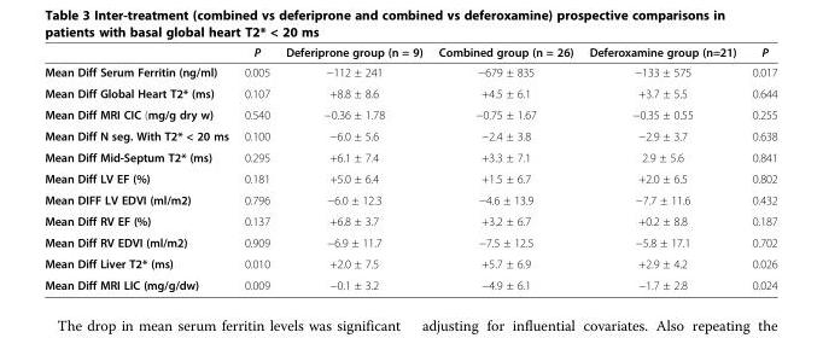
<table><thead><tr><td></td><td>P</td><td>Deferiprone group (n = 9)</td><td>Combined group (n = 26)</td><td>Deferoxamine group (n=21)</td><td>P</td></tr></thead><tbody><tr><td>Mean Diff Serum Ferritin (ng/ml)</td><td>0.005</td><td>−112 ± 241</td><td>−679 ± 835</td><td>−133 ± 575</td><td>0.017</td></tr><tr><td>Mean Diff Global Heart T2* (ms)</td><td>0.107</td><td>+8.8 ± 8.6</td><td>+4.5 ± 6.1</td><td>+3.7 ± 5.5</td><td>0.644</td></tr><tr><td>Mean Diff MRI CIC (mg/g dry w)</td><td>0.540</td><td>−0.36 ± 1.78</td><td>−0.75 ± 1.67</td><td>−0.35 ± 0.55</td><td>0.255</td></tr><tr><td>Mean Diff N seg. With T2* &lt; 20 ms</td><td>0.100</td><td>−6.0 ± 5.6</td><td>−2.4 ± 3.8</td><td>−2.9 ± 3.7</td><td>0.638</td></tr><tr><td>Mean Diff Mid-Septum T2* (ms)</td><td>0.295</td><td>+6.1 ± 7.4</td><td>+3.3 ± 7.1</td><td>2.9 ± 5.6</td><td>0.841</td></tr><tr><td>Mean Diff LV EF (%)</td><td>0.181</td><td>+5.0 ± 6.4</td><td>+1.5 ± 6.7</td><td>+2.0 ± 6.5</td><td>0.802</td></tr><tr><td>Mean DIFF LV EDVI (ml/m2)</td><td>0.796</td><td>−6.0 ± 12.3</td><td>−4.6 ± 13.9</td><td>−7.7 ± 11.6</td><td>0.432</td></tr><tr><td>Mean Diff RV EF (%)</td><td>0.137</td><td>+6.8 ± 3.7</td><td>+3.2 ± 6.7</td><td>+0.2 ± 8.8</td><td>0.187</td></tr><tr><td>Mean Diff RV EDVI (ml/m2)</td><td>0.909</td><td>−6.9 ± 11.7</td><td>−7.5 ± 12.5</td><td>−5.8 ± 17.1</td><td>0.702</td></tr><tr><td>Mean Diff Liver T2* (ms)</td><td>0.010</td><td>+2.0 ± 7.5</td><td>+5.7 ± 6.9</td><td>+2.9 ± 4.2</td><td>0.026</td></tr><tr><td>Mean Diff MRI LIC (mg/g/dw)</td><td>0.009</td><td>−0.1 ± 3.2</td><td>−4.9 ± 6.1</td><td>−1.7 ± 2.8</td><td>0.024</td></tr></tbody></table>